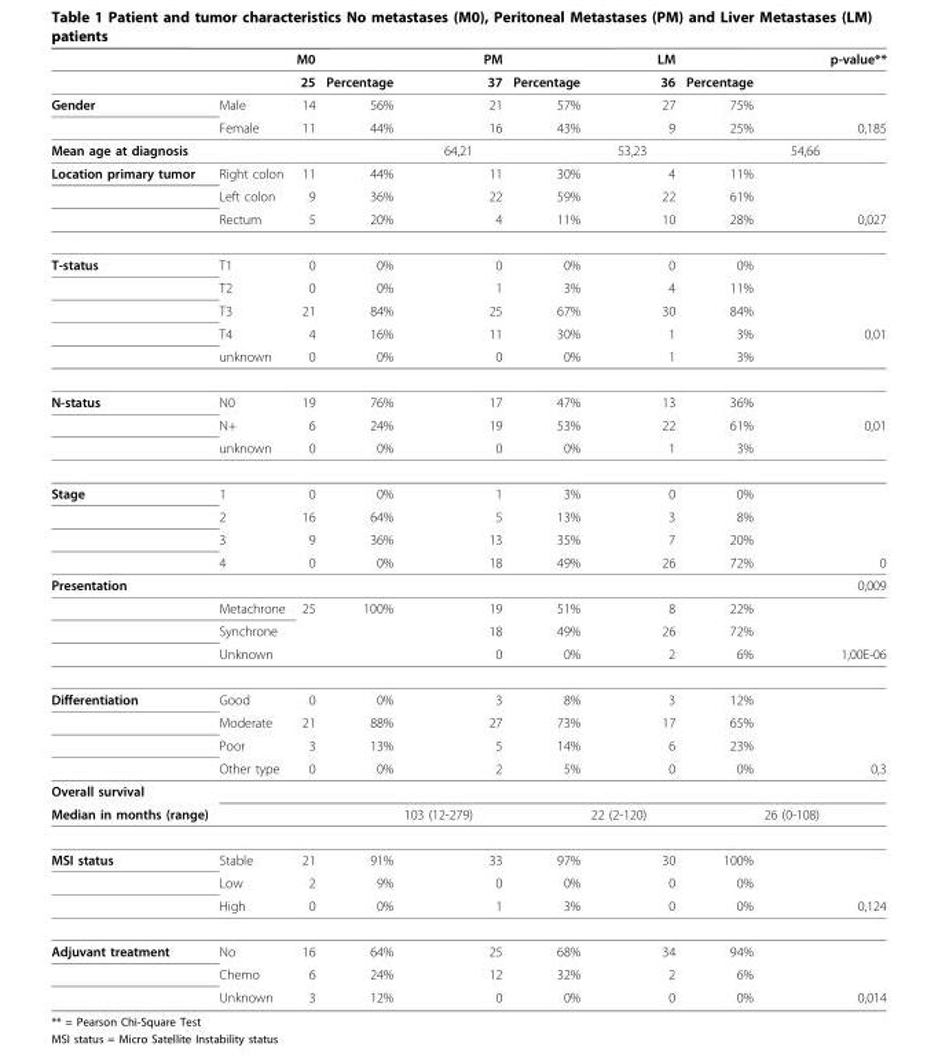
<table><thead><tr><td></td><td></td><td>M0</td><td></td><td></td><td>PM</td><td></td><td></td><td>LM</td><td></td><td></td><td>p-value**</td></tr></thead><tbody><tr><td></td><td></td><td>25</td><td>Percentage</td><td></td><td>37</td><td>Percentage</td><td></td><td>36</td><td>Percentage</td><td></td><td></td></tr><tr><td rowspan="2">Gender</td><td>Male</td><td>14</td><td>56%</td><td></td><td>21</td><td>57%</td><td></td><td>27</td><td>75%</td><td></td><td></td></tr><tr><td>Female</td><td>11</td><td>44%</td><td></td><td>16</td><td>43%</td><td></td><td>9</td><td>25%</td><td></td><td>0,185</td></tr><tr><td>Mean age at diagnosis</td><td></td><td></td><td></td><td>64,21</td><td></td><td></td><td>53,23</td><td></td><td></td><td>54,66</td><td></td></tr><tr><td rowspan="3">Location primary tumor</td><td>Right colon</td><td>11</td><td>44%</td><td></td><td>11</td><td>30%</td><td></td><td>4</td><td>11%</td><td></td><td></td></tr><tr><td>Left colon</td><td>9</td><td>36%</td><td></td><td>22</td><td>59%</td><td></td><td>22</td><td>61%</td><td></td><td></td></tr><tr><td>Rectum</td><td>5</td><td>20%</td><td></td><td>4</td><td>11%</td><td></td><td>10</td><td>28%</td><td></td><td>0,027</td></tr><tr><td rowspan="5">T-status</td><td>T1</td><td>0</td><td>0%</td><td></td><td>0</td><td>0%</td><td></td><td>0</td><td>0%</td><td></td><td></td></tr><tr><td>T2</td><td>0</td><td>0%</td><td></td><td>1</td><td>3%</td><td></td><td>4</td><td>11%</td><td></td><td></td></tr><tr><td>T3</td><td>21</td><td>84%</td><td></td><td>25</td><td>67%</td><td></td><td>30</td><td>84%</td><td></td><td></td></tr><tr><td>T4</td><td>4</td><td>16%</td><td></td><td>11</td><td>30%</td><td></td><td>1</td><td>3%</td><td></td><td>0,01</td></tr><tr><td>unknown</td><td>0</td><td>0%</td><td></td><td>0</td><td>0%</td><td></td><td>1</td><td>3%</td><td></td><td></td></tr><tr><td rowspan="3">N-status</td><td>N0</td><td>19</td><td>76%</td><td></td><td>17</td><td>47%</td><td></td><td>13</td><td>36%</td><td></td><td></td></tr><tr><td>N+</td><td>6</td><td>24%</td><td></td><td>19</td><td>53%</td><td></td><td>22</td><td>61%</td><td></td><td>0,01</td></tr><tr><td>unknown</td><td>0</td><td>0%</td><td></td><td>0</td><td>0%</td><td></td><td>1</td><td>3%</td><td></td><td></td></tr><tr><td rowspan="4">Stage</td><td>1</td><td>0</td><td>0%</td><td></td><td>1</td><td>3%</td><td></td><td>0</td><td>0%</td><td></td><td></td></tr><tr><td>2</td><td>16</td><td>64%</td><td></td><td>5</td><td>13%</td><td></td><td>3</td><td>8%</td><td></td><td></td></tr><tr><td>3</td><td>9</td><td>36%</td><td></td><td>13</td><td>35%</td><td></td><td>7</td><td>20%</td><td></td><td></td></tr><tr><td>4</td><td>0</td><td>0%</td><td></td><td>18</td><td>49%</td><td></td><td>26</td><td>72%</td><td></td><td>0</td></tr><tr><td rowspan="4">Presentation</td><td></td><td></td><td></td><td></td><td></td><td></td><td></td><td></td><td></td><td></td><td>0,009</td></tr><tr><td>Metachrone</td><td>25</td><td>100%</td><td></td><td>19</td><td>51%</td><td></td><td>8</td><td>22%</td><td></td><td></td></tr><tr><td>Synchrone</td><td></td><td></td><td></td><td>18</td><td>49%</td><td></td><td>26</td><td>72%</td><td></td><td></td></tr><tr><td>Unknown</td><td></td><td></td><td></td><td>0</td><td>0%</td><td></td><td>2</td><td>6%</td><td></td><td>1,00E-06</td></tr><tr><td rowspan="4">Differentiation</td><td>Good</td><td>0</td><td>0%</td><td></td><td>3</td><td>8%</td><td></td><td>3</td><td>12%</td><td></td><td></td></tr><tr><td>Moderate</td><td>21</td><td>88%</td><td></td><td>27</td><td>73%</td><td></td><td>17</td><td>65%</td><td></td><td></td></tr><tr><td>Poor</td><td>3</td><td>13%</td><td></td><td>5</td><td>14%</td><td></td><td>6</td><td>23%</td><td></td><td></td></tr><tr><td>Other type</td><td>0</td><td>0%</td><td></td><td>2</td><td>5%</td><td></td><td>0</td><td>0%</td><td></td><td>0,3</td></tr><tr><td colspan="12">Overall survival</td></tr><tr><td>Median in months (range)</td><td></td><td></td><td></td><td>103 (12-279)</td><td></td><td></td><td>22 (2-120)</td><td></td><td></td><td>26 (0-108)</td><td></td></tr><tr><td rowspan="3">MSI status</td><td>Stable</td><td>21</td><td>91%</td><td></td><td>33</td><td>97%</td><td></td><td>30</td><td>100%</td><td></td><td></td></tr><tr><td>Low</td><td>2</td><td>9%</td><td></td><td>0</td><td>0%</td><td></td><td>0</td><td>0%</td><td></td><td></td></tr><tr><td>High</td><td>0</td><td>0%</td><td></td><td>1</td><td>3%</td><td></td><td>0</td><td>0%</td><td></td><td>0,124</td></tr><tr><td rowspan="3">Adjuvant treatment</td><td>No</td><td>16</td><td>64%</td><td></td><td>25</td><td>68%</td><td></td><td>34</td><td>94%</td><td></td><td></td></tr><tr><td>Chemo</td><td>6</td><td>24%</td><td></td><td>12</td><td>32%</td><td></td><td>2</td><td>6%</td><td></td><td></td></tr><tr><td>Unknown</td><td>3</td><td>12%</td><td></td><td>0</td><td>0%</td><td></td><td>0</td><td>0%</td><td></td><td>0,014</td></tr></tbody></table>